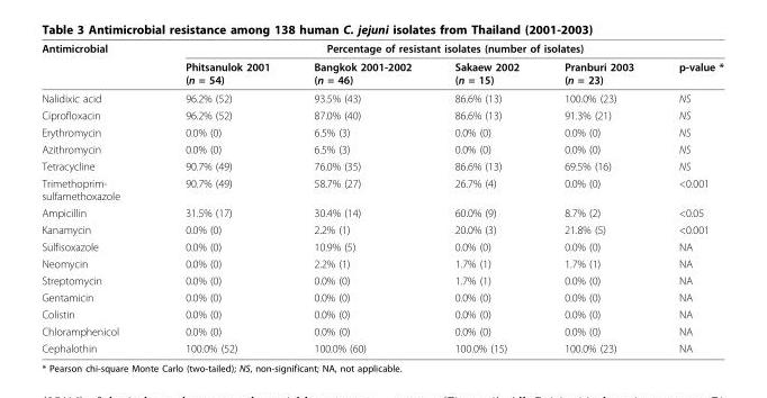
<table><thead><tr><td rowspan="2">Antimicrobial</td><td colspan="5">Percentage of resistant isolates (number of isolates)</td></tr><tr><td>Phitsanulok 2001 (n = 54)</td><td>Bangkok 2001-2002 (n = 46)</td><td>Sakaew 2002 (n = 15)</td><td>Pranburi 2003 (n = 23)</td><td>p-value *</td></tr></thead><tbody><tr><td>Nalidixic acid</td><td>96.2% (52)</td><td>93.5% (43)</td><td>86.6% (13)</td><td>100.0% (23)</td><td>NS</td></tr><tr><td>Ciprofloxacin</td><td>96.2% (52)</td><td>87.0% (40)</td><td>86.6% (13)</td><td>91.3% (21)</td><td>NS</td></tr><tr><td>Erythromycin</td><td>0.0% (0)</td><td>6.5% (3)</td><td>0.0% (0)</td><td>0.0% (0)</td><td>NS</td></tr><tr><td>Azithromycin</td><td>0.0% (0)</td><td>6.5% (3)</td><td>0.0% (0)</td><td>0.0% (0)</td><td>NS</td></tr><tr><td>Tetracycline</td><td>90.7% (49)</td><td>76.0% (35)</td><td>86.6% (13)</td><td>69.5% (16)</td><td>NS</td></tr><tr><td>Trimethoprim- sulfamethoxazole</td><td>90.7% (49)</td><td>58.7% (27)</td><td>26.7% (4)</td><td>0.0% (0)</td><td>&lt;0.001</td></tr><tr><td>Ampicillin</td><td>31.5% (17)</td><td>30.4% (14)</td><td>60.0% (9)</td><td>8.7% (2)</td><td>&lt;0.05</td></tr><tr><td>Kanamycin</td><td>0.0% (0)</td><td>2.2% (1)</td><td>20.0% (3)</td><td>21.8% (5)</td><td>&lt;0.001</td></tr><tr><td>Sulfisoxazole</td><td>0.0% (0)</td><td>10.9% (5)</td><td>0.0% (0)</td><td>0.0% (0)</td><td>NA</td></tr><tr><td>Neomycin</td><td>0.0% (0)</td><td>2.2% (1)</td><td>1.7% (1)</td><td>1.7% (1)</td><td>NA</td></tr><tr><td>Streptomycin</td><td>0.0% (0)</td><td>0.0% (0)</td><td>1.7% (1)</td><td>0.0% (0)</td><td>NA</td></tr><tr><td>Gentamicin</td><td>0.0% (0)</td><td>0.0% (0)</td><td>0.0% (0)</td><td>0.0% (0)</td><td>NA</td></tr><tr><td>Colistin</td><td>0.0% (0)</td><td>0.0% (0)</td><td>0.0% (0)</td><td>0.0% (0)</td><td>NA</td></tr><tr><td>Chloramphenicol</td><td>0.0% (0)</td><td>0.0% (0)</td><td>0.0% (0)</td><td>0.0% (0)</td><td>NA</td></tr><tr><td>Cephalothin</td><td>100.0% (52)</td><td>100.0% (60)</td><td>100.0% (15)</td><td>100.0% (23)</td><td>NA</td></tr></tbody></table>